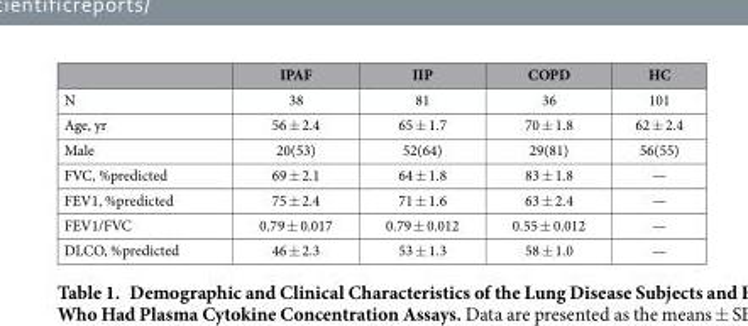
<table><thead><tr><td></td><td>IPAF</td><td>IIP</td><td>COPD</td><td>HC</td></tr></thead><tbody><tr><td>N</td><td>38</td><td>81</td><td>36</td><td>101</td></tr><tr><td>Age, yr</td><td>56 ± 2.4</td><td>65 ± 1.7</td><td>70 ± 1.8</td><td>62 ± 2.4</td></tr><tr><td>Male</td><td>20(53)</td><td>52(64)</td><td>29(81)</td><td>56(55)</td></tr><tr><td>FVC, %predicted</td><td>69 ± 2.1</td><td>64 ± 1.8</td><td>83 ± 1.8</td><td>—</td></tr><tr><td>FEV1, %predicted</td><td>75 ± 2.4</td><td>71 ± 1.6</td><td>63 ± 2.4</td><td>—</td></tr><tr><td>FEV1/FVC</td><td>0.79 ± 0.017</td><td>0.79 ± 0.012</td><td>0.55 ± 0.012</td><td>—</td></tr><tr><td>DLCO, %predicted</td><td>46 ± 2.3</td><td>53 ± 1.3</td><td>58 ± 1.0</td><td>—</td></tr></tbody></table>